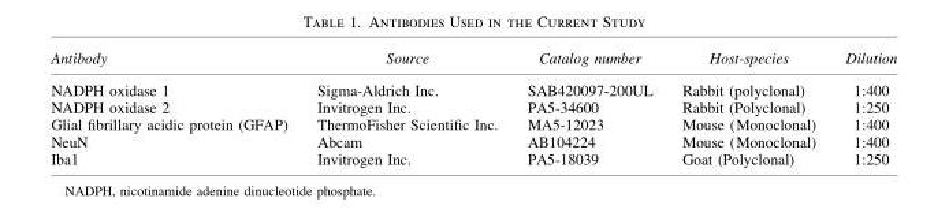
<table><thead><tr><td>Antibody</td><td>Source</td><td>Catalog number</td><td>Host-species</td><td>Dilution</td></tr></thead><tbody><tr><td>NADPH oxidase 1</td><td>Sigma-Aldrich Inc.</td><td>SAB420097-200UL</td><td>Rabbit (polyclonal)</td><td>1:400</td></tr><tr><td>NADPH oxidase 2</td><td>Invitrogen Inc.</td><td>PA5-34600</td><td>Rabbit (Polyclonal)</td><td>1:250</td></tr><tr><td>Glial fibrillary acidic protein (GFAP)</td><td>ThermoFisher Scientific Inc.</td><td>MA5-12023</td><td>Mouse (Monoclonal)</td><td>1:400</td></tr><tr><td>NeuN</td><td>Abcam</td><td>AB104224</td><td>Mouse (Monoclonal)</td><td>1:400</td></tr><tr><td>Iba1</td><td>Invitrogen Inc.</td><td>PA5-18039</td><td>Goat (Polyclonal)</td><td>1:250</td></tr></tbody></table>